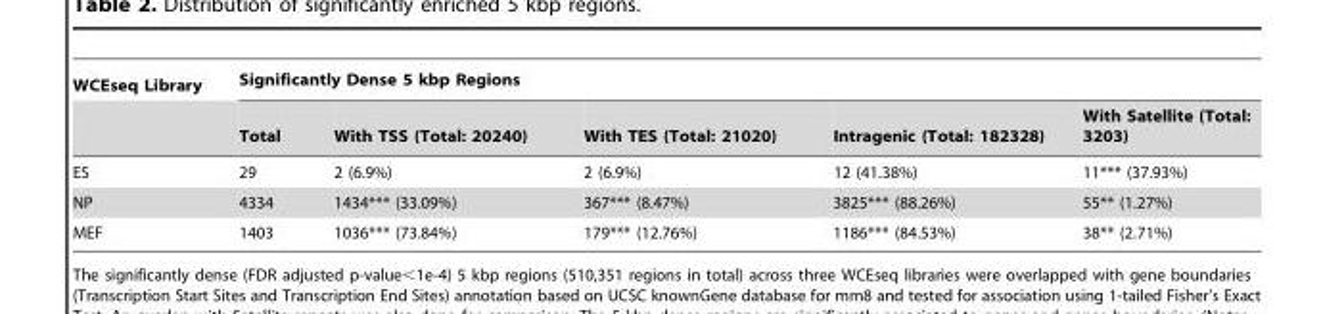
<table><thead><tr><td rowspan="2">WCEseq Library</td><td colspan="5">Significantly Dense 5 kbp Regions</td></tr><tr><td>Total</td><td>With TSS (Total: 20240)</td><td>With TES (Total: 21020)</td><td>Intragenic (Total: 182328)</td><td>With Satellite (Total: 3203)</td></tr></thead><tbody><tr><td>ES</td><td>29</td><td>2 (6.9%)</td><td>2 (6.9%)</td><td>12 (41.38%)</td><td>11*** (37.93%)</td></tr><tr><td>NP</td><td>4334</td><td>1434*** (33.09%)</td><td>367*** (8.47%)</td><td>3825*** (88.26%)</td><td>55** (1.27%)</td></tr><tr><td>MEF</td><td>1403</td><td>1036*** (73.84%)</td><td>179*** (12.76%)</td><td>1186*** (84.53%)</td><td>38** (2.71%)</td></tr></tbody></table>